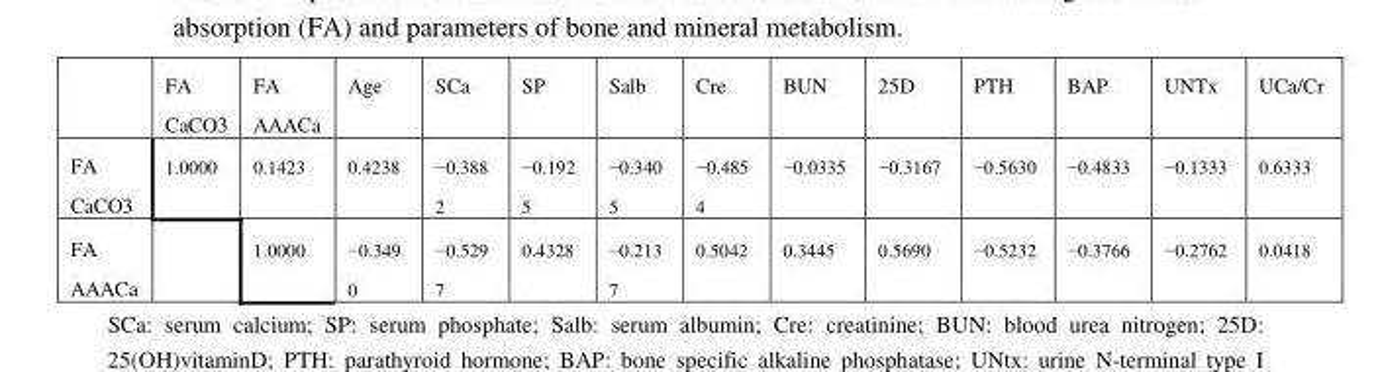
<table><thead><tr><td></td><td>FA CaCO3</td><td>FA AAACa</td><td>Age</td><td>SCa</td><td>SP</td><td>Salb</td><td>Cre</td><td>BUN</td><td>25D</td><td>PTH</td><td>BAP</td><td>UNTx</td><td>UCa/Cr</td></tr></thead><tbody><tr><td>FA CaCO3</td><td>1.0000</td><td>0.1423</td><td>0.4238</td><td>−0.388 2</td><td>−0.192 5</td><td>−0.340 5</td><td>−0.485 4</td><td>−0.0335</td><td>−0.3167</td><td>−0.5630</td><td>−0.4833</td><td>−0.1333</td><td>0.6333</td></tr><tr><td>FA AAACa</td><td></td><td>1.0000</td><td>−0.349 0</td><td>−0.529 7</td><td>0.4328</td><td>−0.213 7</td><td>0.5042</td><td>0.3445</td><td>0.5690</td><td>−0.5232</td><td>−0.3766</td><td>−0.2762</td><td>0.0418</td></tr></tbody></table>